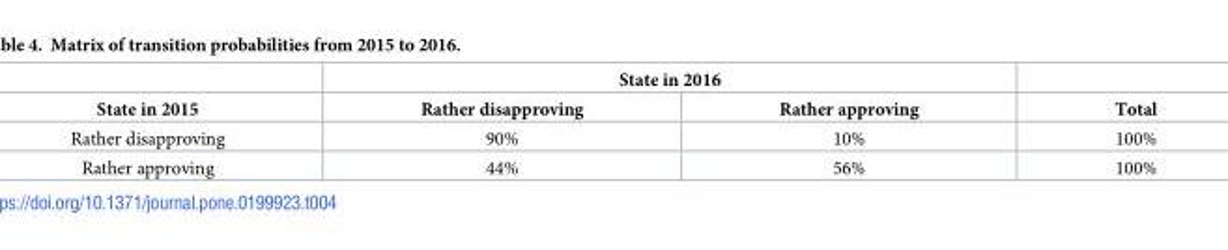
<table><thead><tr><td rowspan="2">State in 2015</td><td colspan="2">State in 2016</td><td rowspan="2">Total</td></tr><tr><td>Rather disapproving</td><td>Rather approving</td></tr></thead><tbody><tr><td>Rather disapproving</td><td>90%</td><td>10%</td><td>100%</td></tr><tr><td>Rather approving</td><td>44%</td><td>56%</td><td>100%</td></tr></tbody></table>